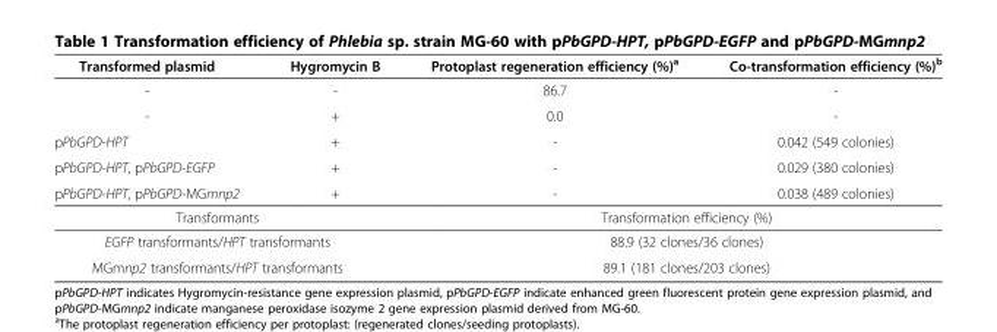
<table><thead><tr><td>Transformed plasmid</td><td>Hygromycin B</td><td>Protoplast regeneration efficiency (%)<sup>a</sup></td><td>Co-transformation efficiency (%)<sup>b</sup></td></tr></thead><tbody><tr><td>-</td><td>-</td><td>86.7</td><td>-</td></tr><tr><td>-</td><td>+</td><td>0.0</td><td>-</td></tr><tr><td>pPbGPD-HPT</td><td>+</td><td>-</td><td>0.042 (549 colonies)</td></tr><tr><td>pPbGPD-HPT, pPbGPD-EGFP</td><td>+</td><td>-</td><td>0.029 (380 colonies)</td></tr><tr><td>pPbGPD-HPT, pPbGPD-MGmnp2</td><td>+</td><td>-</td><td>0.038 (489 colonies)</td></tr><tr><td colspan="2">Transformants</td><td colspan="2">Transformation efficiency (%)</td></tr><tr><td colspan="2">EGFP transformants/HPT transformants</td><td colspan="2">88.9 (32 clones/36 clones)</td></tr><tr><td colspan="2">MGmnp2 transformants/HPT transformants</td><td colspan="2">89.1 (181 clones/203 clones)</td></tr></tbody></table>